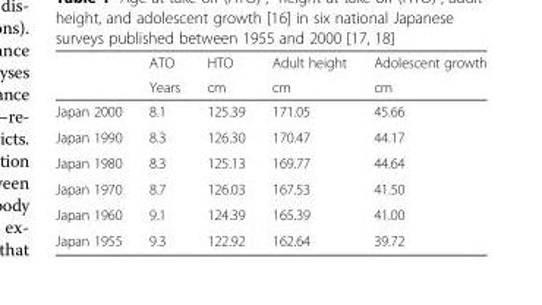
<table><thead><tr><td rowspan="2"></td><td rowspan="2">ATO Years</td><td rowspan="2">HTO cm</td><td rowspan="2">Adult height cm</td><td rowspan="2">Adolescent growth cm</td></tr><tr></tr></thead><tbody><tr><td>Japan 2000</td><td>8.1</td><td>125.39</td><td>171.05</td><td>45.66</td></tr><tr><td>Japan 1990</td><td>8.3</td><td>126.30</td><td>170.47</td><td>44.17</td></tr><tr><td>Japan 1980</td><td>8.3</td><td>125.13</td><td>169.77</td><td>44.64</td></tr><tr><td>Japan 1970</td><td>8.7</td><td>126.03</td><td>167.53</td><td>41.50</td></tr><tr><td>Japan 1960</td><td>9.1</td><td>124.39</td><td>165.39</td><td>41.00</td></tr><tr><td>Japan 1955</td><td>9.3</td><td>122.92</td><td>162.64</td><td>39.72</td></tr></tbody></table>